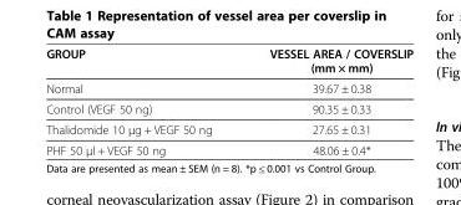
<table><thead><tr><td>GROUP</td><td>VESSEL AREA / COVERSLIP (mm × mm)</td></tr></thead><tbody><tr><td>Normal</td><td>39.67 ± 0.38</td></tr><tr><td>Control (VEGF 50 ng)</td><td>90.35 ± 0.33</td></tr><tr><td>Thalidomide 10 μg + VEGF 50 ng</td><td>27.65 ± 0.31</td></tr><tr><td>PHF 50 μl + VEGF 50 ng</td><td>48.06 ± 0.4*</td></tr></tbody></table>